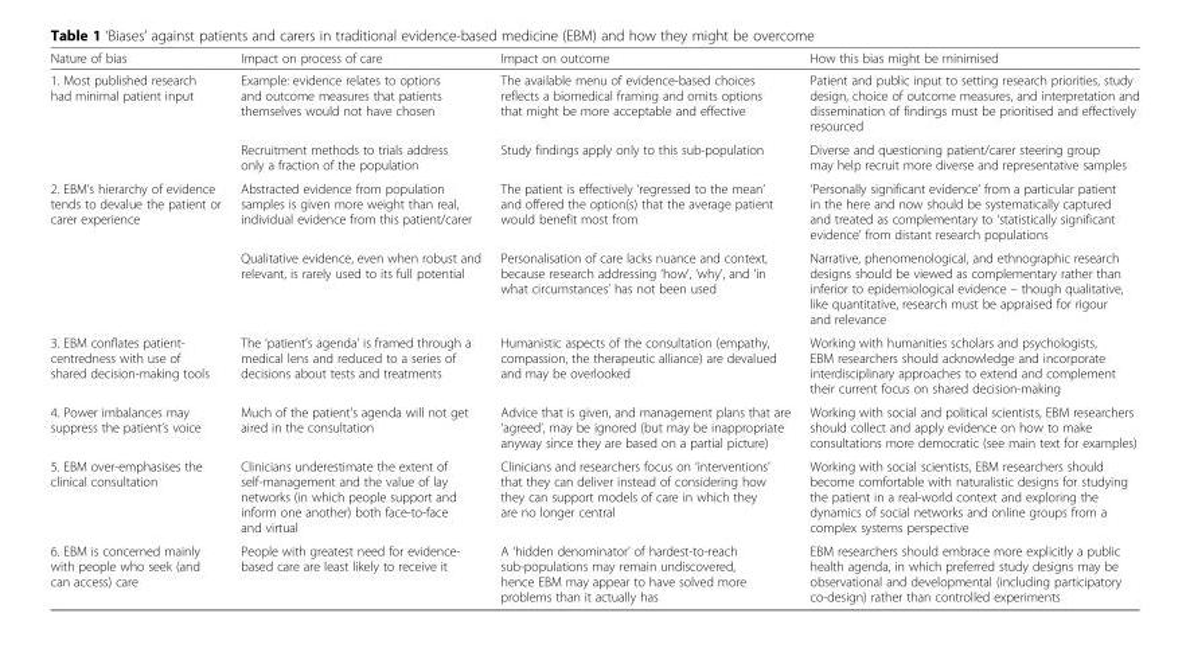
<table><thead><tr><td>Nature of bias</td><td>Impact on process of care</td><td>Impact on outcome</td><td>How this bias might be minimised</td></tr></thead><tbody><tr><td rowspan="2">1. Most published research had minimal patient input</td><td>Example: evidence relates to options and outcome measures that patients themselves would not have chosen</td><td>The available menu of evidence-based choices reflects a biomedical framing and omits options that might be more acceptable and effective</td><td>Patient and public input to setting research priorities, study design, choice of outcome measures, and interpretation and dissemination of findings must be prioritised and effectively resourced</td></tr><tr><td>Recruitment methods to trials address only a fraction of the population</td><td>Study findings apply only to this sub-population</td><td>Diverse and questioning patient/carer steering group may help recruit more diverse and representative samples</td></tr><tr><td rowspan="2">2. EBM’s hierarchy of evidence tends to devalue the patient or carer experience</td><td>Abstracted evidence from population samples is given more weight than real, individual evidence from this patient/carer</td><td>The patient is effectively ‘regressed to the mean’ and offered the option(s) that the average patient would benefit most from</td><td>‘Personally significant evidence’ from a particular patient in the here and now should be systematically captured and treated as complementary to ‘statistically significant evidence’ from distant research populations</td></tr><tr><td>Qualitative evidence, even when robust and relevant, is rarely used to its full potential</td><td>Personalisation of care lacks nuance and context, because research addressing ‘how’, ‘why’, and ‘in what circumstances’ has not been used</td><td>Narrative, phenomenological, and ethnographic research designs should be viewed as complementary rather than inferior to epidemiological evidence – though qualitative, like quantitative, research must be appraised for rigour and relevance</td></tr><tr><td>3. EBM conflates patient- centredness with use of shared decision-making tools</td><td>The ‘patient’s agenda’ is framed through a medical lens and reduced to a series of decisions about tests and treatments</td><td>Humanistic aspects of the consultation (empathy, compassion, the therapeutic alliance) are devalued and may be overlooked</td><td>Working with humanities scholars and psychologists, EBM researchers should acknowledge and incorporate interdisciplinary approaches to extend and complement their current focus on shared decision-making</td></tr><tr><td>4. Power imbalances may suppress the patient’s voice</td><td>Much of the patient’s agenda will not get aired in the consultation</td><td>Advice that is given, and management plans that are ‘agreed’, may be ignored (but may be inappropriate anyway since they are based on a partial picture)</td><td>Working with social and political scientists, EBM researchers should collect and apply evidence on how to make consultations more democratic (see main text for examples)</td></tr><tr><td>5. EBM over-emphasises the clinical consultation</td><td>Clinicians underestimate the extent of self-management and the value of lay networks (in which people support and inform one another) both face-to-face and virtual</td><td>Clinicians and researchers focus on ‘interventions’ that they can deliver instead of considering how they can support models of care in which they are no longer central</td><td>Working with social scientists, EBM researchers should become comfortable with naturalistic designs for studying the patient in a real-world context and exploring the dynamics of social networks and online groups from a complex systems perspective</td></tr><tr><td>6. EBM is concerned mainly with people who seek (and can access) care</td><td>People with greatest need for evidence- based care are least likely to receive it</td><td>A ‘hidden denominator’ of hardest-to-reach sub-populations may remain undiscovered, hence EBM may appear to have solved more problems than it actually has</td><td>EBM researchers should embrace more explicitly a public health agenda, in which preferred study designs may be observational and developmental (including participatory co-design) rather than controlled experiments</td></tr></tbody></table>